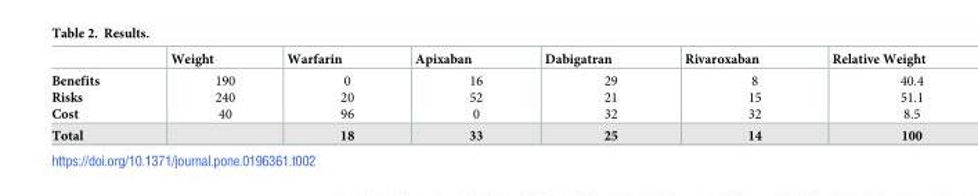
<table><thead><tr><td></td><td>Weight</td><td>Warfarin</td><td>Apixaban</td><td>Dabigatran</td><td>Rivaroxaban</td><td>Relative Weight</td></tr></thead><tbody><tr><td>Benefits Risks Cost</td><td>190 240 40</td><td>0 20 96</td><td>16 52 0</td><td>29 21 32</td><td>8 15 32</td><td>40.4 51.1 8.5</td></tr><tr><td>Total</td><td></td><td>18</td><td>33</td><td>25</td><td>14</td><td>100</td></tr></tbody></table>